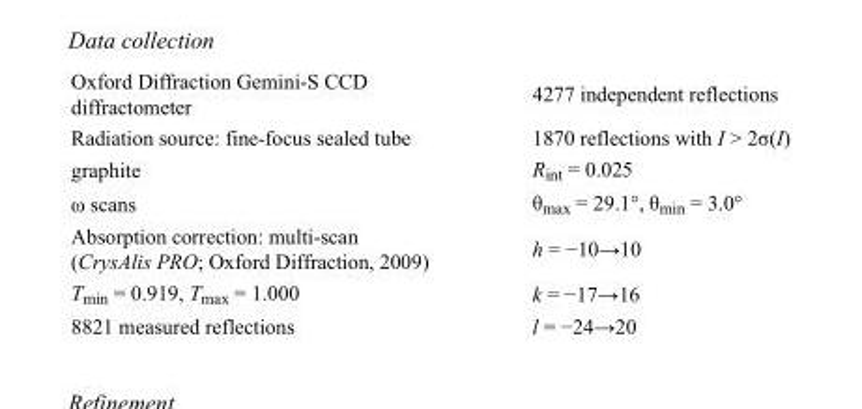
<table><tbody><tr><td>Oxford Diffraction Gemini-S CCD diffractometer</td><td>4277 independent reflections</td></tr><tr><td>Radiation source: fine-focus sealed tube</td><td>1870 reflections with I &gt; 2σ(I)</td></tr><tr><td>graphite</td><td>R<sub>int</sub> = 0.025</td></tr><tr><td>ω scans</td><td>θ<sub>max</sub> = 29.1°, θ<sub>min</sub> = 3.0°</td></tr><tr><td>Absorption correction: multi-scan (CrysAlis PRO; Oxford Diffraction, 2009)</td><td>h = −10→10</td></tr><tr><td>T<sub>min</sub> = 0.919, T<sub>max</sub> = 1.000</td><td>k = −17→16</td></tr><tr><td>8821 measured reflections</td><td>l = −24→20</td></tr></tbody></table>